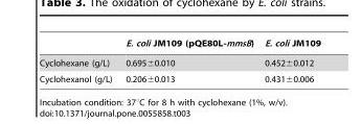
<table><thead><tr><td></td><td>E. coli JM109 (pQE80L-mmsB)</td><td>E. coli JM109</td></tr></thead><tbody><tr><td>Cyclohexane (g/L)</td><td>0.695±0.010</td><td>0.452±0.012</td></tr><tr><td>Cyclohexanol (g/L)</td><td>0.206±0.013</td><td>0.431±0.006</td></tr></tbody></table>